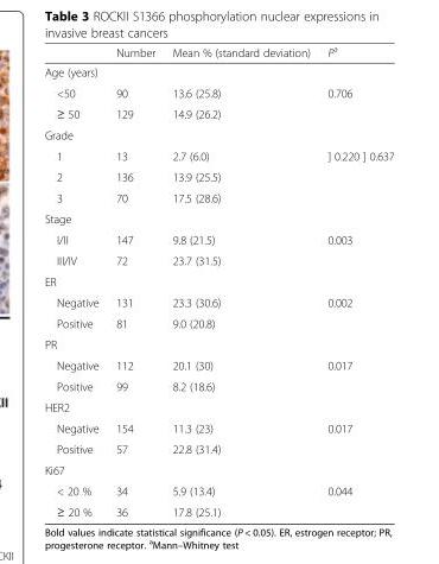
<table><thead><tr><td></td><td>Number</td><td>Mean % (standard deviation)</td><td>P<sup>a</sup></td></tr></thead><tbody><tr><td colspan="4">Age (years)</td></tr><tr><td>&lt;50</td><td>90</td><td>13.6 (25.8)</td><td rowspan="2">0.706</td></tr><tr><td>≥ 50</td><td>129</td><td>14.9 (26.2)</td></tr><tr><td colspan="4">Grade</td></tr><tr><td>1</td><td>13</td><td>2.7 (6.0)</td><td rowspan="3">] 0.220 ] 0.637</td></tr><tr><td>2</td><td>136</td><td>13.9 (25.5)</td></tr><tr><td>3</td><td>70</td><td>17.5 (28.6)</td></tr><tr><td colspan="4">Stage</td></tr><tr><td>I/II</td><td>147</td><td>9.8 (21.5)</td><td rowspan="2">0.003</td></tr><tr><td>III/IV</td><td>72</td><td>23.7 (31.5)</td></tr><tr><td colspan="4">ER</td></tr><tr><td>Negative</td><td>131</td><td>23.3 (30.6)</td><td rowspan="2">0.002</td></tr><tr><td>Positive</td><td>81</td><td>9.0 (20.8)</td></tr><tr><td colspan="4">PR</td></tr><tr><td>Negative</td><td>112</td><td>20.1 (30)</td><td rowspan="2">0.017</td></tr><tr><td>Positive</td><td>99</td><td>8.2 (18.6)</td></tr><tr><td colspan="4">HER2</td></tr><tr><td>Negative</td><td>154</td><td>11.3 (23)</td><td rowspan="2">0.017</td></tr><tr><td>Positive</td><td>57</td><td>22.8 (31.4)</td></tr><tr><td colspan="4">Ki67</td></tr><tr><td>&lt; 20 %</td><td>34</td><td>5.9 (13.4)</td><td rowspan="2">0.044</td></tr><tr><td>≥ 20 %</td><td>36</td><td>17.8 (25.1)</td></tr></tbody></table>